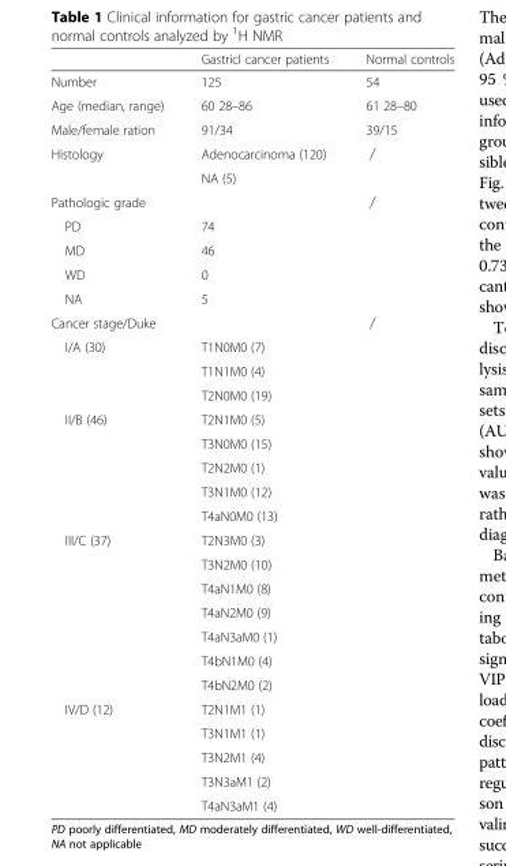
<table><thead><tr><td></td><td>Gastricl cancer patients</td><td>Normal controls</td></tr></thead><tbody><tr><td>Number</td><td>125</td><td>54</td></tr><tr><td>Age (median, range)</td><td>60 28–86</td><td>61 28–80</td></tr><tr><td>Male/female ration</td><td>91/34</td><td>39/15</td></tr><tr><td rowspan="2">Histology</td><td>Adenocarcinoma (120)</td><td>∕</td></tr><tr><td>NA (5)</td><td></td></tr><tr><td>Pathologic grade</td><td></td><td>∕</td></tr><tr><td>PD</td><td>74</td><td></td></tr><tr><td>MD</td><td>46</td><td></td></tr><tr><td>WD</td><td>0</td><td></td></tr><tr><td>NA</td><td>5</td><td></td></tr><tr><td>Cancer stage/Duke</td><td></td><td>∕</td></tr><tr><td rowspan="3">I/A (30)</td><td>T1N0M0 (7)</td><td></td></tr><tr><td>T1N1M0 (4)</td><td></td></tr><tr><td>T2N0M0 (19)</td><td></td></tr><tr><td rowspan="5">II/B (46)</td><td>T2N1M0 (5)</td><td></td></tr><tr><td>T3N0M0 (15)</td><td></td></tr><tr><td>T2N2M0 (1)</td><td></td></tr><tr><td>T3N1M0 (12)</td><td></td></tr><tr><td>T4aN0M0 (13)</td><td></td></tr><tr><td rowspan="7">III/C (37)</td><td>T2N3M0 (3)</td><td></td></tr><tr><td>T3N2M0 (10)</td><td></td></tr><tr><td>T4aN1M0 (8)</td><td></td></tr><tr><td>T4aN2M0 (9)</td><td></td></tr><tr><td>T4aN3aM0 (1)</td><td></td></tr><tr><td>T4bN1M0 (4)</td><td></td></tr><tr><td>T4bN2M0 (2)</td><td></td></tr><tr><td rowspan="5">IV/D (12)</td><td>T2N1M1 (1)</td><td></td></tr><tr><td>T3N1M1 (1)</td><td></td></tr><tr><td>T3N2M1 (4)</td><td></td></tr><tr><td>T3N3aM1 (2)</td><td></td></tr><tr><td>T4aN3aM1 (4)</td><td></td></tr></tbody></table>